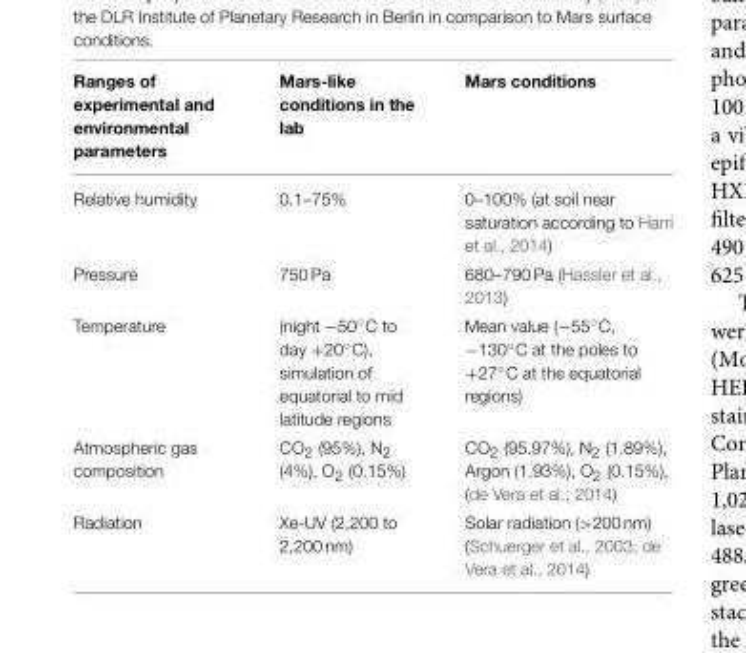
<table><thead><tr><td>Ranges of experimental and environmental parameters</td><td>Mars-like conditions in the lab</td><td>Mars conditions</td></tr></thead><tbody><tr><td>Relative humidity</td><td>0.1–75%</td><td>0–100% (at soil near saturation according to Harri et al., 2014)</td></tr><tr><td>Pressure</td><td>750 Pa</td><td>680–790 Pa (Hassler et al., 2013)</td></tr><tr><td>Temperature</td><td>(night −50◦C to day +20◦C), simulation of equatorial to mid latitude regions</td><td>Mean value (−55◦C, −130◦C at the poles to +27◦C at the equatorial regions)</td></tr><tr><td>Atmospheric gas composition</td><td>CO<sub>2</sub> (95%), N<sub>2</sub> (4%), O<sub>2</sub> (0.15%)</td><td>CO<sub>2</sub> (95.97%), N<sub>2</sub> (1.89%), Argon (1.93%), O<sub>2</sub> (0.15%), (de Vera et al., 2014)</td></tr><tr><td>Radiation</td><td>Xe-UV (2,200 to 2,200 nm)</td><td>Solar radiation (&gt;200 nm) (Schuerger et al., 2003; de Vera et al., 2014)</td></tr></tbody></table>